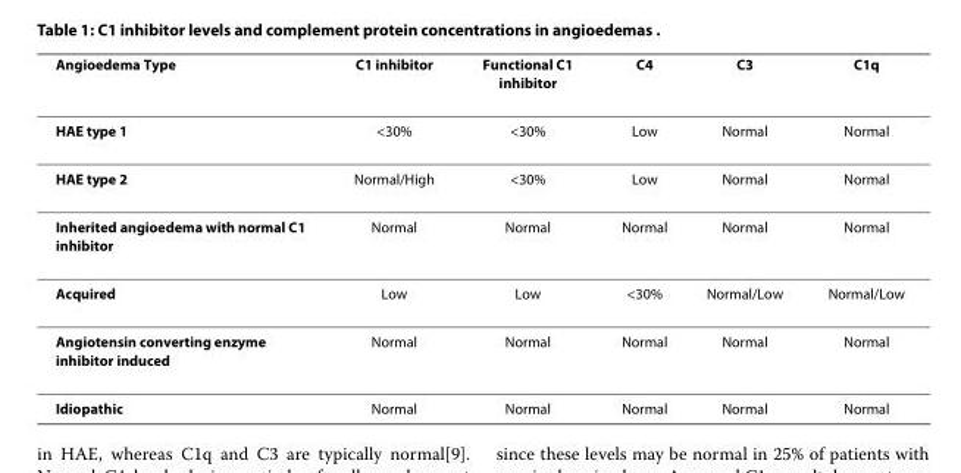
<table><thead><tr><td>Angioedema Type</td><td>C1 inhibitor</td><td>Functional C1 inhibitor</td><td>C4</td><td>C3</td><td>C1q</td></tr></thead><tbody><tr><td>HAE type 1</td><td>&lt;30%</td><td>&lt;30%</td><td>Low</td><td>Normal</td><td>Normal</td></tr><tr><td>HAE type 2</td><td>Normal/High</td><td>&lt;30%</td><td>Low</td><td>Normal</td><td>Normal</td></tr><tr><td>Inherited angioedema with normal C1 inhibitor</td><td>Normal</td><td>Normal</td><td>Normal</td><td>Normal</td><td>Normal</td></tr><tr><td>Acquired</td><td>Low</td><td>Low</td><td>&lt;30%</td><td>Normal/Low</td><td>Normal/Low</td></tr><tr><td>Angiotensin converting enzyme inhibitor induced</td><td>Normal</td><td>Normal</td><td>Normal</td><td>Normal</td><td>Normal</td></tr><tr><td>Idiopathic</td><td>Normal</td><td>Normal</td><td>Normal</td><td>Normal</td><td>Normal</td></tr></tbody></table>